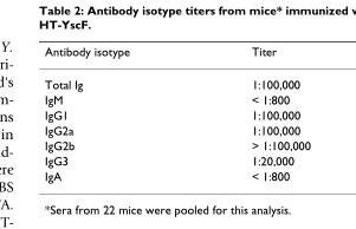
<table><thead><tr><td>Antibody isotype</td><td>Titer</td></tr></thead><tbody><tr><td>Total Ig</td><td>1:100,000</td></tr><tr><td>IgM</td><td>&lt; 1:800</td></tr><tr><td>IgG1</td><td>1:100,000</td></tr><tr><td>IgG2a</td><td>1:100,000</td></tr><tr><td>IgG2b</td><td>&gt; 1:100,000</td></tr><tr><td>IgG3</td><td>1:20,000</td></tr><tr><td>IgA</td><td>&lt; 1:800</td></tr></tbody></table>